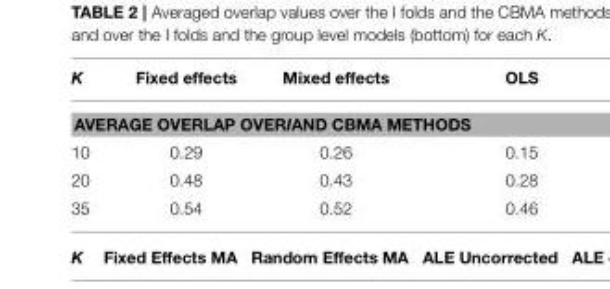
<table><thead><tr><td>K</td><td>Fixed effects</td><td>Mixed effects</td><td>OLS</td></tr></thead><tbody><tr><td colspan="4">AVERAGE OVERLAP OVERIAND CBMA METHODS</td></tr><tr><td>10</td><td>0.29</td><td>0.26</td><td>0.15</td></tr><tr><td>20</td><td>0.48</td><td>0.43</td><td>0.28</td></tr><tr><td>35</td><td>0.54</td><td>0.52</td><td>0.46</td></tr></tbody></table>